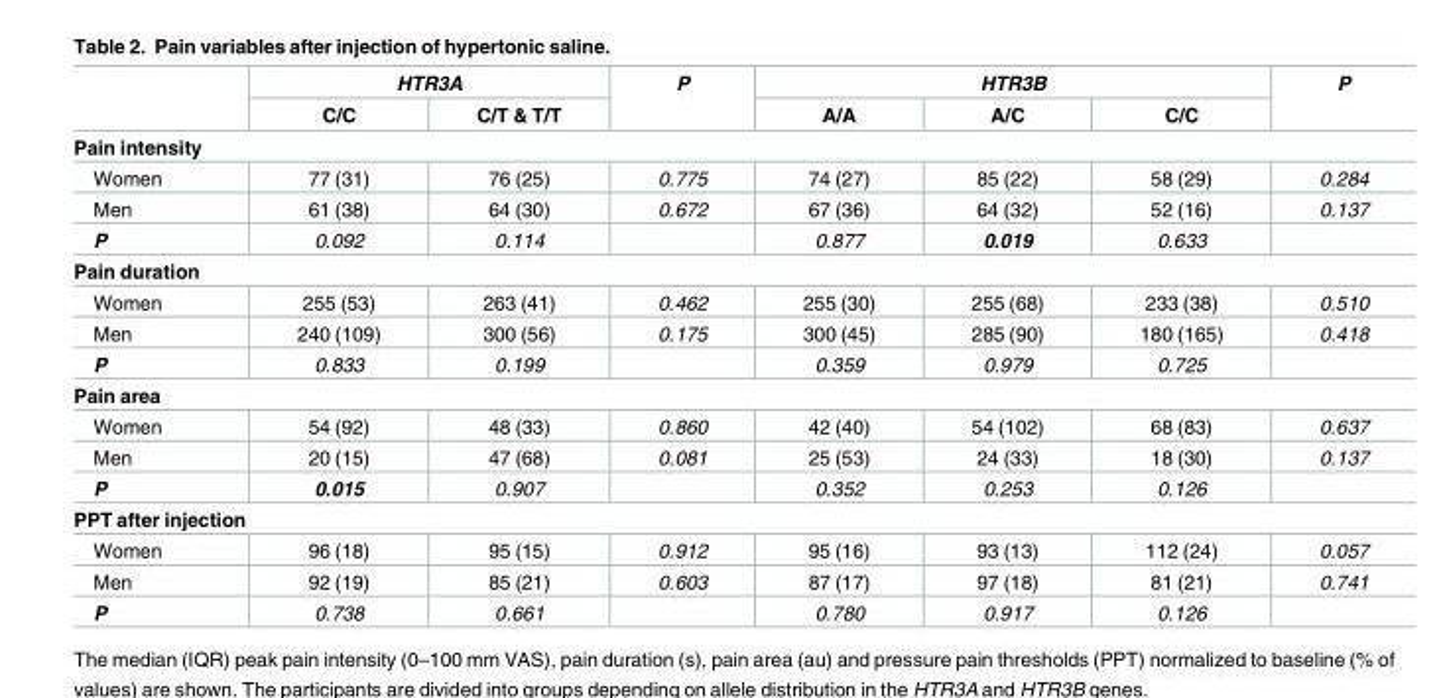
<table><thead><tr><td rowspan="2"></td><td colspan="2">HTR3A</td><td rowspan="2">P</td><td colspan="3">HTR3B</td><td rowspan="2">P</td></tr><tr><td>C/C</td><td>C/T &amp; T/T</td><td>A/A</td><td>A/C</td><td>C/C</td></tr></thead><tbody><tr><td colspan="8">Pain intensity</td></tr><tr><td>Women</td><td>77 (31)</td><td>76 (25)</td><td>0.775</td><td>74 (27)</td><td>85 (22)</td><td>58 (29)</td><td>0.284</td></tr><tr><td>Men</td><td>61 (38)</td><td>64 (30)</td><td>0.672</td><td>67 (36)</td><td>64 (32)</td><td>52 (16)</td><td>0.137</td></tr><tr><td>P</td><td>0.092</td><td>0.114</td><td></td><td>0.877</td><td>0.019</td><td>0.633</td><td></td></tr><tr><td colspan="8">Pain duration</td></tr><tr><td>Women</td><td>255 (53)</td><td>263 (41)</td><td>0.462</td><td>255 (30)</td><td>255 (68)</td><td>233 (38)</td><td>0.510</td></tr><tr><td>Men</td><td>240 (109)</td><td>300 (56)</td><td>0.175</td><td>300 (45)</td><td>285 (90)</td><td>180 (165)</td><td>0.418</td></tr><tr><td>P</td><td>0.833</td><td>0.199</td><td></td><td>0.359</td><td>0.979</td><td>0.725</td><td></td></tr><tr><td colspan="8">Pain area</td></tr><tr><td>Women</td><td>54 (92)</td><td>48 (33)</td><td>0.860</td><td>42 (40)</td><td>54 (102)</td><td>68 (83)</td><td>0.637</td></tr><tr><td>Men</td><td>20 (15)</td><td>47 (68)</td><td>0.081</td><td>25 (53)</td><td>24 (33)</td><td>18 (30)</td><td>0.137</td></tr><tr><td>P</td><td>0.015</td><td>0.907</td><td></td><td>0.352</td><td>0.253</td><td>0.126</td><td></td></tr><tr><td colspan="8">PPT after injection</td></tr><tr><td>Women</td><td>96 (18)</td><td>95 (15)</td><td>0.912</td><td>95 (16)</td><td>93 (13)</td><td>112 (24)</td><td>0.057</td></tr><tr><td>Men</td><td>92 (19)</td><td>85 (21)</td><td>0.603</td><td>87 (17)</td><td>97 (18)</td><td>81 (21)</td><td>0.741</td></tr><tr><td>P</td><td>0.738</td><td>0.661</td><td></td><td>0.780</td><td>0.917</td><td>0.126</td><td></td></tr></tbody></table>